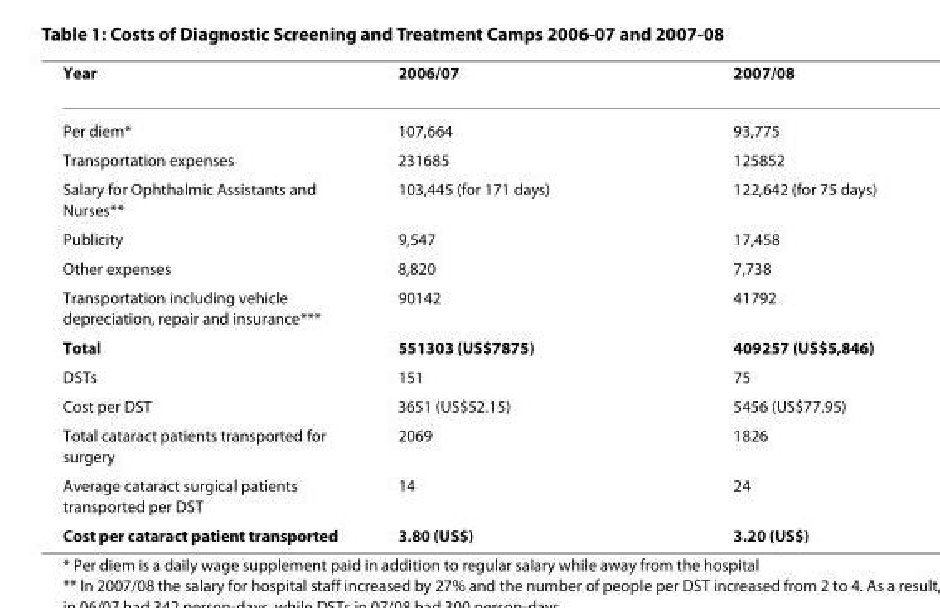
<table><thead><tr><td>Year</td><td>2006/07</td><td>2007/08</td></tr></thead><tbody><tr><td>Per diem*</td><td>107,664</td><td>93,775</td></tr><tr><td>Transportation expenses</td><td>231685</td><td>125852</td></tr><tr><td>Salary for Ophthalmic Assistants and Nurses**</td><td>103,445 (for 171 days)</td><td>122,642 (for 75 days)</td></tr><tr><td>Publicity</td><td>9,547</td><td>17,458</td></tr><tr><td>Other expenses</td><td>8,820</td><td>7,738</td></tr><tr><td>Transportation including vehicle depreciation, repair and insurance***</td><td>90142</td><td>41792</td></tr><tr><td>Total</td><td>551303 (US$7875)</td><td>409257 (US$5,846)</td></tr><tr><td>DSTs</td><td>151</td><td>75</td></tr><tr><td>Cost per DST</td><td>3651 (US$52.15)</td><td>5456 (US$77.95)</td></tr><tr><td>Total cataract patients transported for surgery</td><td>2069</td><td>1826</td></tr><tr><td>Average cataract surgical patients transported per DST</td><td>14</td><td>24</td></tr><tr><td>Cost per cataract patient transported</td><td>3.80 (US$)</td><td>3.20 (US$)</td></tr></tbody></table>